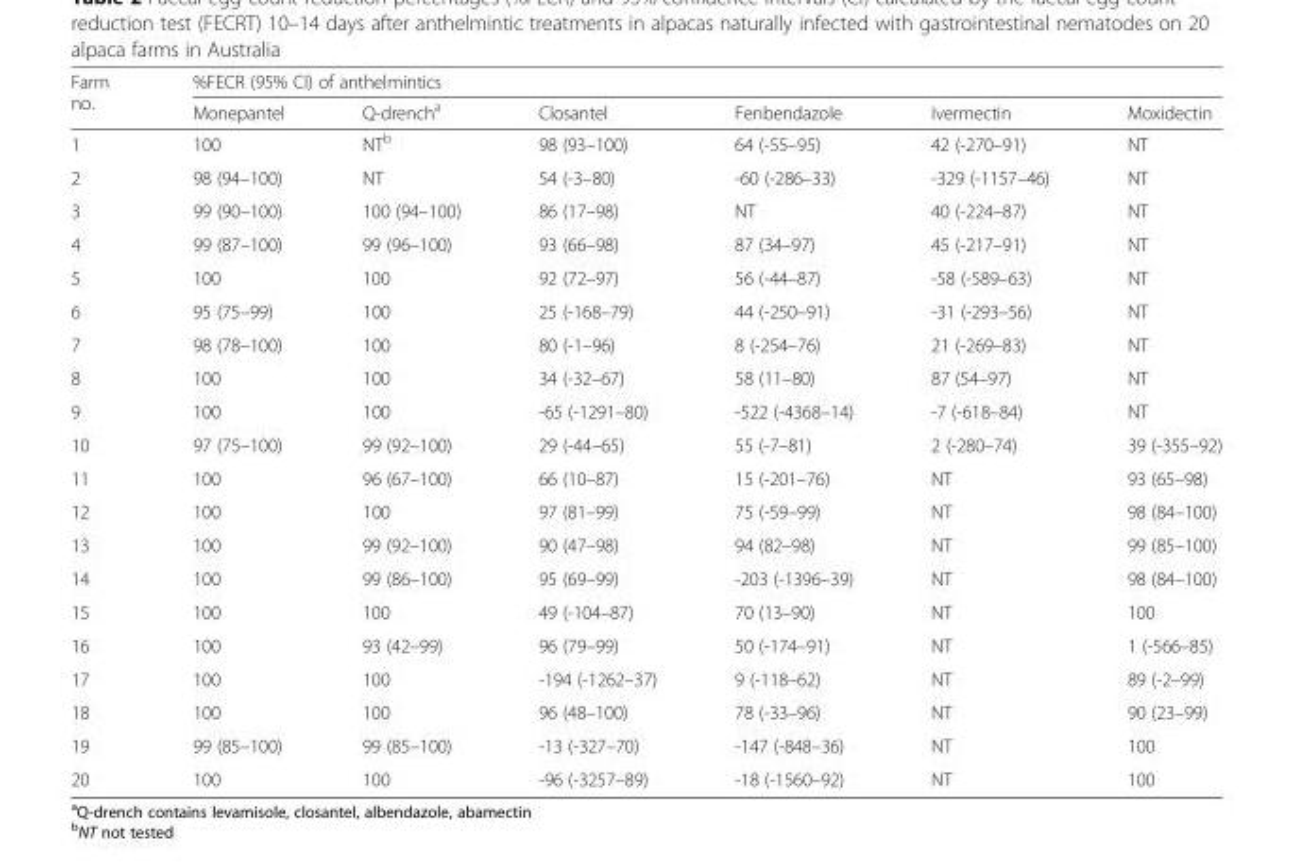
<table><thead><tr><td rowspan="2">Farm no.</td><td colspan="6">%FECR (95% CI) of anthelmintics</td></tr><tr><td>Monepantel</td><td>Q-drench<sup>a</sup></td><td>Closantel</td><td>Fenbendazole</td><td>Ivermectin</td><td>Moxidectin</td></tr></thead><tbody><tr><td>1</td><td>100</td><td>NT<sup>b</sup></td><td>98 (93–100)</td><td>64 (-55–95)</td><td>42 (-270–91)</td><td>NT</td></tr><tr><td>2</td><td>98 (94–100)</td><td>NT</td><td>54 (-3–80)</td><td>-60 (-286–33)</td><td>-329 (-1157–46)</td><td>NT</td></tr><tr><td>3</td><td>99 (90–100)</td><td>100 (94–100)</td><td>86 (17–98)</td><td>NT</td><td>40 (-224–87)</td><td>NT</td></tr><tr><td>4</td><td>99 (87–100)</td><td>99 (96–100)</td><td>93 (66–98)</td><td>87 (34–97)</td><td>45 (-217–91)</td><td>NT</td></tr><tr><td>5</td><td>100</td><td>100</td><td>92 (72–97)</td><td>56 (-44–87)</td><td>-58 (-589–63)</td><td>NT</td></tr><tr><td>6</td><td>95 (75–99)</td><td>100</td><td>25 (-168–79)</td><td>44 (-250–91)</td><td>-31 (-293–56)</td><td>NT</td></tr><tr><td>7</td><td>98 (78–100)</td><td>100</td><td>80 (-1–96)</td><td>8 (-254–76)</td><td>21 (-269–83)</td><td>NT</td></tr><tr><td>8</td><td>100</td><td>100</td><td>34 (-32–67)</td><td>58 (11–80)</td><td>87 (54–97)</td><td>NT</td></tr><tr><td>9</td><td>100</td><td>100</td><td>-65 (-1291–80)</td><td>-522 (-4368–14)</td><td>-7 (-618–84)</td><td>NT</td></tr><tr><td>10</td><td>97 (75–100)</td><td>99 (92–100)</td><td>29 (-44–65)</td><td>55 (-7–81)</td><td>2 (-280–74)</td><td>39 (-355–92)</td></tr><tr><td>11</td><td>100</td><td>96 (67–100)</td><td>66 (10–87)</td><td>15 (-201–76)</td><td>NT</td><td>93 (65–98)</td></tr><tr><td>12</td><td>100</td><td>100</td><td>97 (81–99)</td><td>75 (-59–99)</td><td>NT</td><td>98 (84–100)</td></tr><tr><td>13</td><td>100</td><td>99 (92–100)</td><td>90 (47–98)</td><td>94 (82–98)</td><td>NT</td><td>99 (85–100)</td></tr><tr><td>14</td><td>100</td><td>99 (86–100)</td><td>95 (69–99)</td><td>-203 (-1396–39)</td><td>NT</td><td>98 (84–100)</td></tr><tr><td>15</td><td>100</td><td>100</td><td>49 (-104–87)</td><td>70 (13–90)</td><td>NT</td><td>100</td></tr><tr><td>16</td><td>100</td><td>93 (42–99)</td><td>96 (79–99)</td><td>50 (-174–91)</td><td>NT</td><td>1 (-566–85)</td></tr><tr><td>17</td><td>100</td><td>100</td><td>-194 (-1262–37)</td><td>9 (-118–62)</td><td>NT</td><td>89 (-2–99)</td></tr><tr><td>18</td><td>100</td><td>100</td><td>96 (48–100)</td><td>78 (-33–96)</td><td>NT</td><td>90 (23–99)</td></tr><tr><td>19</td><td>99 (85–100)</td><td>99 (85–100)</td><td>-13 (-327–70)</td><td>-147 (-848–36)</td><td>NT</td><td>100</td></tr><tr><td>20</td><td>100</td><td>100</td><td>-96 (-3257–89)</td><td>-18 (-1560–92)</td><td>NT</td><td>100</td></tr></tbody></table>